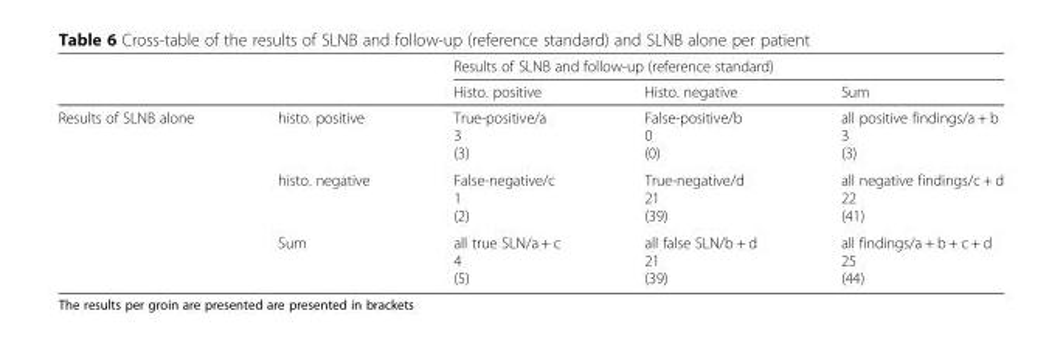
<table><thead><tr><td rowspan="2"></td><td rowspan="2"></td><td colspan="3">Results of SLNB and follow-up (reference standard)</td></tr><tr><td>Histo. positive</td><td>Histo. negative</td><td>Sum</td></tr></thead><tbody><tr><td rowspan="3">Results of SLNB alone</td><td>histo. positive</td><td>True-positive/a 3 (3)</td><td>False-positive/b 0 (0)</td><td>all positive findings/a + b 3 (3)</td></tr><tr><td>histo. negative</td><td>False-negative/c 1 (2)</td><td>True-negative/d 21 (39)</td><td>all negative findings/c + d 22 (41)</td></tr><tr><td>Sum</td><td>all true SLN/a + c 4 (5)</td><td>all false SLN/b + d 21 (39)</td><td>all findings/a + b + c + d 25 (44)</td></tr></tbody></table>